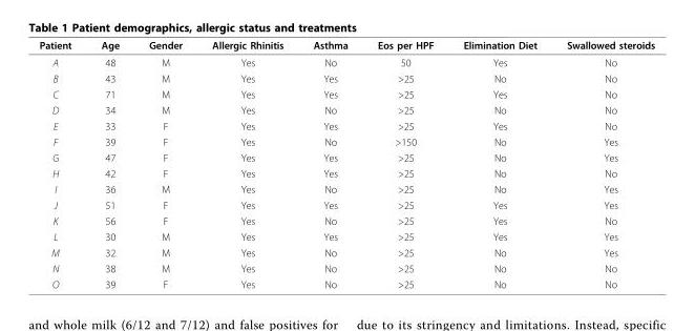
<table><thead><tr><td>Patient</td><td>Age</td><td>Gender</td><td>Allergic Rhinitis</td><td>Asthma</td><td>Eos per HPF</td><td>Elimination Diet</td><td>Swallowed steroids</td></tr></thead><tbody><tr><td>A</td><td>48</td><td>M</td><td>Yes</td><td>No</td><td>50</td><td>Yes</td><td>No</td></tr><tr><td>B</td><td>43</td><td>M</td><td>Yes</td><td>Yes</td><td>&gt;25</td><td>No</td><td>No</td></tr><tr><td>C</td><td>71</td><td>M</td><td>Yes</td><td>Yes</td><td>&gt;25</td><td>Yes</td><td>No</td></tr><tr><td>D</td><td>34</td><td>M</td><td>Yes</td><td>No</td><td>&gt;25</td><td>No</td><td>No</td></tr><tr><td>E</td><td>33</td><td>F</td><td>Yes</td><td>Yes</td><td>&gt;25</td><td>Yes</td><td>No</td></tr><tr><td>F</td><td>39</td><td>F</td><td>Yes</td><td>No</td><td>&gt;150</td><td>No</td><td>Yes</td></tr><tr><td>G</td><td>47</td><td>F</td><td>Yes</td><td>Yes</td><td>&gt;25</td><td>No</td><td>Yes</td></tr><tr><td>H</td><td>42</td><td>F</td><td>Yes</td><td>Yes</td><td>&gt;25</td><td>No</td><td>No</td></tr><tr><td>I</td><td>36</td><td>M</td><td>Yes</td><td>No</td><td>&gt;25</td><td>No</td><td>Yes</td></tr><tr><td>J</td><td>51</td><td>F</td><td>Yes</td><td>Yes</td><td>&gt;25</td><td>Yes</td><td>Yes</td></tr><tr><td>K</td><td>56</td><td>F</td><td>Yes</td><td>No</td><td>&gt;25</td><td>Yes</td><td>No</td></tr><tr><td>L</td><td>30</td><td>M</td><td>Yes</td><td>Yes</td><td>&gt;25</td><td>Yes</td><td>Yes</td></tr><tr><td>M</td><td>32</td><td>M</td><td>Yes</td><td>No</td><td>&gt;25</td><td>No</td><td>Yes</td></tr><tr><td>N</td><td>38</td><td>M</td><td>Yes</td><td>No</td><td>&gt;25</td><td>No</td><td>No</td></tr><tr><td>O</td><td>39</td><td>F</td><td>Yes</td><td>No</td><td>&gt;25</td><td>No</td><td>No</td></tr></tbody></table>